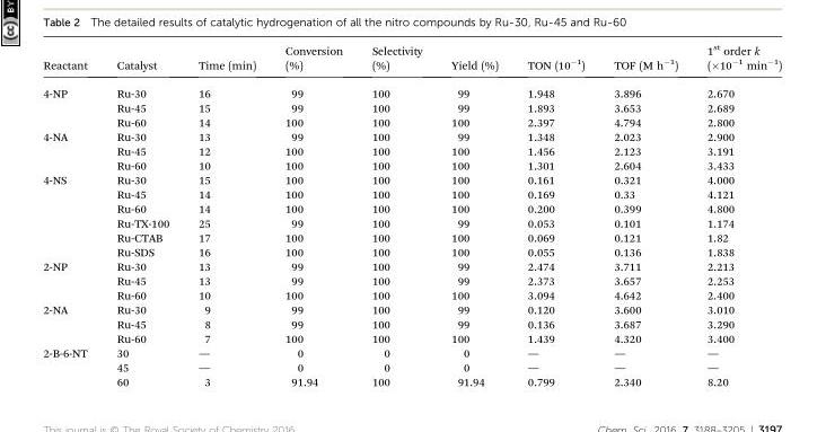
<table><thead><tr><td>Reactant</td><td>Catalyst</td><td>Time (min)</td><td>Conversion (%)</td><td>Selectivity (%)</td><td>Yield (%)</td><td>TON (10<sup>–1</sup>)</td><td>TOF (M h<sup>–1</sup>)</td><td>1<sup>st</sup> order k (×10<sup>–1</sup> min<sup>–1</sup>)</td></tr></thead><tbody><tr><td rowspan="3">4-NP</td><td>Ru-30</td><td>16</td><td>99</td><td>100</td><td>99</td><td>1.948</td><td>3.896</td><td>2.670</td></tr><tr><td>Ru-45</td><td>15</td><td>99</td><td>100</td><td>99</td><td>1.893</td><td>3.653</td><td>2.689</td></tr><tr><td>Ru-60</td><td>14</td><td>100</td><td>100</td><td>100</td><td>2.397</td><td>4.794</td><td>2.800</td></tr><tr><td rowspan="3">4-NA</td><td>Ru-30</td><td>13</td><td>99</td><td>100</td><td>99</td><td>1.348</td><td>2.023</td><td>2.900</td></tr><tr><td>Ru-45</td><td>12</td><td>100</td><td>100</td><td>100</td><td>1.456</td><td>2.123</td><td>3.191</td></tr><tr><td>Ru-60</td><td>10</td><td>100</td><td>100</td><td>100</td><td>1.301</td><td>2.604</td><td>3.433</td></tr><tr><td rowspan="6">4-NS</td><td>Ru-30</td><td>15</td><td>100</td><td>100</td><td>100</td><td>0.161</td><td>0.321</td><td>4.000</td></tr><tr><td>Ru-45</td><td>14</td><td>100</td><td>100</td><td>100</td><td>0.169</td><td>0.33</td><td>4.121</td></tr><tr><td>Ru-60</td><td>14</td><td>100</td><td>100</td><td>100</td><td>0.200</td><td>0.399</td><td>4.800</td></tr><tr><td>Ru-TX-100</td><td>25</td><td>99</td><td>100</td><td>99</td><td>0.053</td><td>0.101</td><td>1.174</td></tr><tr><td>Ru-CTAB</td><td>17</td><td>100</td><td>100</td><td>100</td><td>0.069</td><td>0.121</td><td>1.82</td></tr><tr><td>Ru-SDS</td><td>16</td><td>100</td><td>100</td><td>100</td><td>0.055</td><td>0.136</td><td>1.838</td></tr><tr><td rowspan="3">2-NP</td><td>Ru-30</td><td>13</td><td>99</td><td>100</td><td>99</td><td>2.474</td><td>3.711</td><td>2.213</td></tr><tr><td>Ru-45</td><td>13</td><td>99</td><td>100</td><td>99</td><td>2.373</td><td>3.657</td><td>2.253</td></tr><tr><td>Ru-60</td><td>10</td><td>100</td><td>100</td><td>100</td><td>3.094</td><td>4.642</td><td>2.400</td></tr><tr><td rowspan="3">2-NA</td><td>Ru-30</td><td>9</td><td>99</td><td>100</td><td>99</td><td>0.120</td><td>3.600</td><td>3.010</td></tr><tr><td>Ru-45</td><td>8</td><td>99</td><td>100</td><td>99</td><td>0.136</td><td>3.687</td><td>3.290</td></tr><tr><td>Ru-60</td><td>7</td><td>100</td><td>100</td><td>100</td><td>1.439</td><td>4.320</td><td>3.400</td></tr><tr><td rowspan="3">2-B-6-NT</td><td>30</td><td>—</td><td>0</td><td>0</td><td>0</td><td>—</td><td>—</td><td>—</td></tr><tr><td>45</td><td>—</td><td>0</td><td>0</td><td>0</td><td>—</td><td>—</td><td>—</td></tr><tr><td>60</td><td>3</td><td>91.94</td><td>100</td><td>91.94</td><td>0.799</td><td>2.340</td><td>8.20</td></tr></tbody></table>